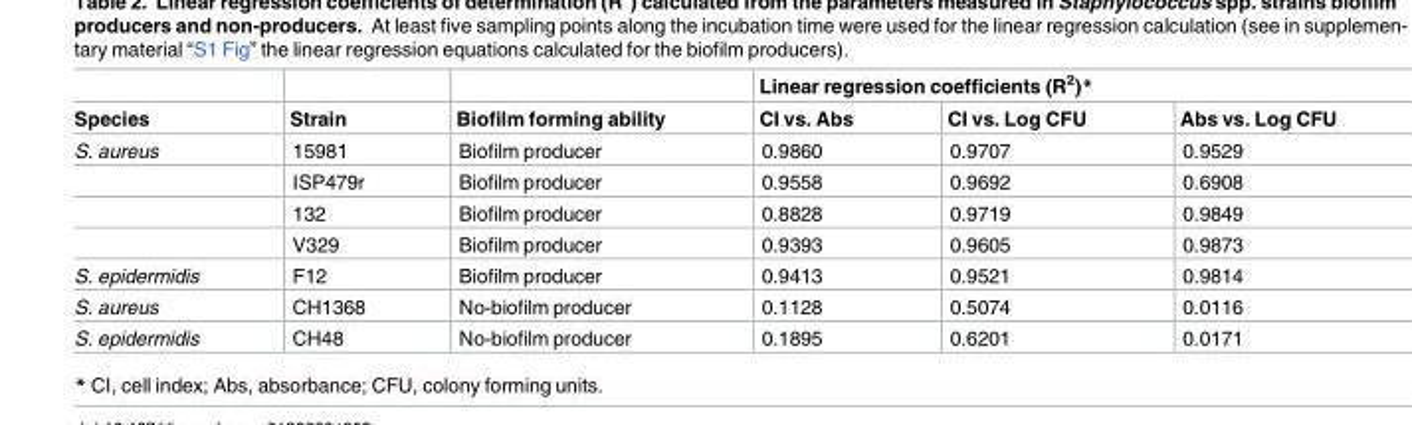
<table><thead><tr><td rowspan="2">Species</td><td rowspan="2">Strain</td><td rowspan="2">Biofilm forming ability</td><td colspan="3">Linear regression coefficients (R<sup>2</sup>)*</td></tr><tr><td>CI vs. Abs</td><td>CI vs. Log CFU</td><td>Abs vs. Log CFU</td></tr></thead><tbody><tr><td rowspan="4">S. aureus</td><td>15981</td><td>Biofilm producer</td><td>0.9860</td><td>0.9707</td><td>0.9529</td></tr><tr><td>ISP479r</td><td>Biofilm producer</td><td>0.9558</td><td>0.9692</td><td>0.6908</td></tr><tr><td>132</td><td>Biofilm producer</td><td>0.8828</td><td>0.9719</td><td>0.9849</td></tr><tr><td>V329</td><td>Biofilm producer</td><td>0.9393</td><td>0.9605</td><td>0.9873</td></tr><tr><td>S. epidermidis</td><td>F12</td><td>Biofilm producer</td><td>0.9413</td><td>0.9521</td><td>0.9814</td></tr><tr><td>S. aureus</td><td>CH1368</td><td>No-biofilm producer</td><td>0.1128</td><td>0.5074</td><td>0.0116</td></tr><tr><td>S. epidermidis</td><td>CH48</td><td>No-biofilm producer</td><td>0.1895</td><td>0.6201</td><td>0.0171</td></tr></tbody></table>